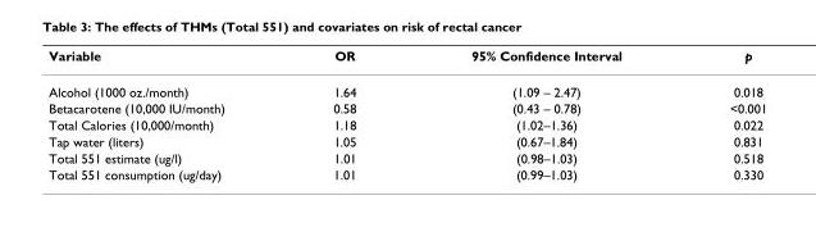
<table><thead><tr><td>Variable</td><td>OR</td><td>95% Confidence Interval</td><td>p</td></tr></thead><tbody><tr><td>Alcohol (1000 oz./month)</td><td>1.64</td><td>(1.09 – 2.47)</td><td>0.018</td></tr><tr><td>Betacarotene (10,000 IU/month)</td><td>0.58</td><td>(0.43 – 0.78)</td><td>&lt;0.001</td></tr><tr><td>Total Calories (10,000/month)</td><td>1.18</td><td>(1.02–1.36)</td><td>0.022</td></tr><tr><td>Tap water (liters)</td><td>1.05</td><td>(0.67–1.84)</td><td>0.831</td></tr><tr><td>Total 551 estimate (ug/l)</td><td>1.01</td><td>(0.98–1.03)</td><td>0.518</td></tr><tr><td>Total 551 consumption (ug/day)</td><td>1.01</td><td>(0.99–1.03)</td><td>0.330</td></tr></tbody></table>